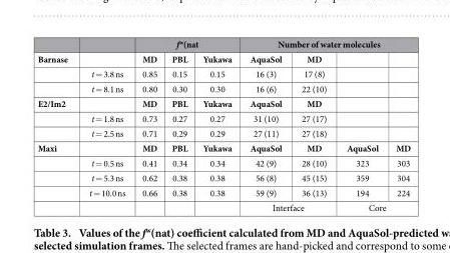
<table><thead><tr><td rowspan="2">Barnase</td><td rowspan="2"></td><td colspan="3">f<sup>w</sup>(nat</td><td colspan="4">Number of water molecules</td></tr><tr><td>MD</td><td>PBL</td><td>Yukawa</td><td>AquaSol</td><td>MD</td><td></td><td></td></tr></thead><tbody><tr><td></td><td>t = 3.8 ns</td><td>0.85</td><td>0.15</td><td>0.15</td><td>16 (3)</td><td>17 (8)</td><td></td><td></td></tr><tr><td></td><td>t = 8.1 ns</td><td>0.80</td><td>0.30</td><td>0.30</td><td>16 (6)</td><td>22 (10)</td><td></td><td></td></tr><tr><td rowspan="3">E2/Im2</td><td></td><td>MD</td><td>PBL</td><td>Yukawa</td><td>AquaSol</td><td>MD</td><td></td><td></td></tr><tr><td>t = 1.8 ns</td><td>0.73</td><td>0.27</td><td>0.27</td><td>31 (10)</td><td>27 (17)</td><td></td><td></td></tr><tr><td>t = 2.5 ns</td><td>0.71</td><td>0.29</td><td>0.29</td><td>27 (11)</td><td>27 (18)</td><td></td><td></td></tr><tr><td rowspan="5">Maxi</td><td></td><td>MD</td><td>PBL</td><td>Yukawa</td><td>AquaSol</td><td>MD</td><td>AquaSol</td><td>MD</td></tr><tr><td>t = 0.5 ns</td><td>0.41</td><td>0.34</td><td>0.34</td><td>42 (9)</td><td>28 (10)</td><td>323</td><td>303</td></tr><tr><td>t = 5.3 ns</td><td>0.62</td><td>0.38</td><td>0.38</td><td>56 (8)</td><td>45 (15)</td><td>359</td><td>304</td></tr><tr><td>t = 10.0 ns</td><td>0.66</td><td>0.38</td><td>0.38</td><td>59 (9)</td><td>36 (13)</td><td>194</td><td>224</td></tr><tr><td></td><td></td><td></td><td></td><td colspan="2">Interface</td><td colspan="2">Core</td></tr></tbody></table>